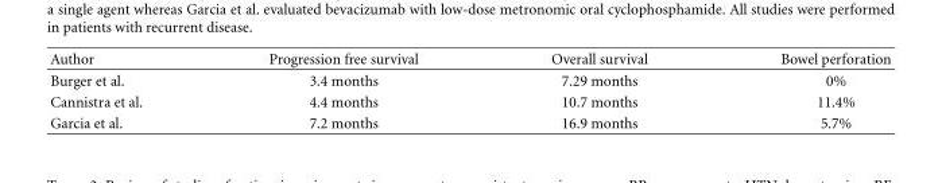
<table><thead><tr><td>Author</td><td>Progression free survival</td><td>Overall survival</td><td>Bowel perforation</td></tr></thead><tbody><tr><td>Burger et al.</td><td>3.4 months</td><td>7.29 months</td><td>0%</td></tr><tr><td>Cannistra et al.</td><td>4.4 months</td><td>10.7 months</td><td>11.4%</td></tr><tr><td>Garcia et al.</td><td>7.2 months</td><td>16.9 months</td><td>5.7%</td></tr></tbody></table>